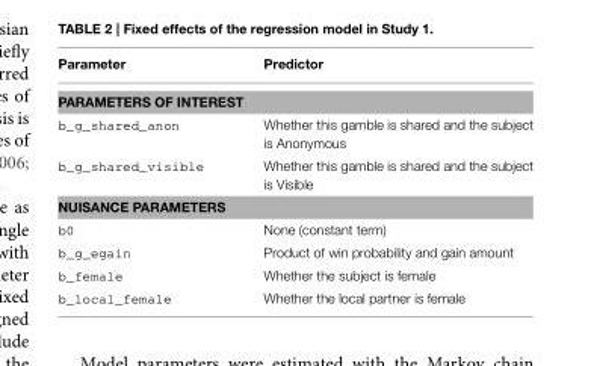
<table><thead><tr><td>Parameter</td><td>Predictor</td></tr></thead><tbody><tr><td colspan="2">PARAMETERS OF INTEREST</td></tr><tr><td>b_g_shared_anon</td><td>Whether this gamble is shared and the subject is Anonymous</td></tr><tr><td>b_g_shared_visible</td><td>Whether this gamble is shared and the subject is Visible</td></tr><tr><td colspan="2">NUISANCE PARAMETERS</td></tr><tr><td>b0</td><td>None (constant term)</td></tr><tr><td>b_g_egain</td><td>Product of win probability and gain amount</td></tr><tr><td>b_female</td><td>Whether the subject is female</td></tr><tr><td>b_local_female</td><td>Whether the local partner is female</td></tr></tbody></table>